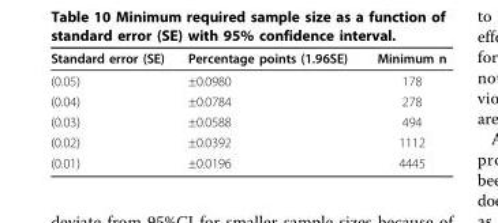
<table><thead><tr><td>Standard error (SE)</td><td>Percentage points (1.96SE)</td><td>Minimum n</td></tr></thead><tbody><tr><td>(0.05)</td><td>±0.0980</td><td>178</td></tr><tr><td>(0.04)</td><td>±0.0784</td><td>278</td></tr><tr><td>(0.03)</td><td>±0.0588</td><td>494</td></tr><tr><td>(0.02)</td><td>±0.0392</td><td>1112</td></tr><tr><td>(0.01)</td><td>±0.0196</td><td>4445</td></tr></tbody></table>